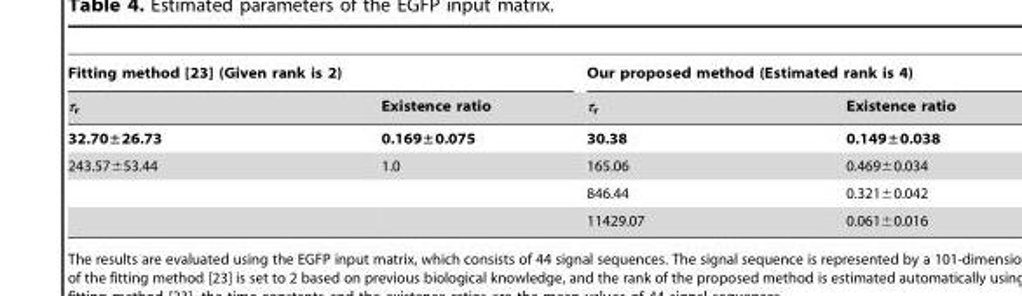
<table><thead><tr><td colspan="2">Fitting method [23] (Given rank is 2)</td><td colspan="2">Our proposed method (Estimated rank is 4)</td></tr><tr><td>τ<sub>r</sub></td><td>Existence ratio</td><td>τ<sub>r</sub></td><td>Existence ratio</td></tr></thead><tbody><tr><td>32.70±26.73</td><td>0.169±0.075</td><td>30.38</td><td>0.149±0.038</td></tr><tr><td rowspan="3">243.57±53.44</td><td>1.0</td><td>165.06</td><td>0.469±0.034</td></tr><tr><td></td><td>846.44</td><td>0.321±0.042</td></tr><tr><td></td><td>11429.07</td><td>0.061±0.016</td></tr></tbody></table>